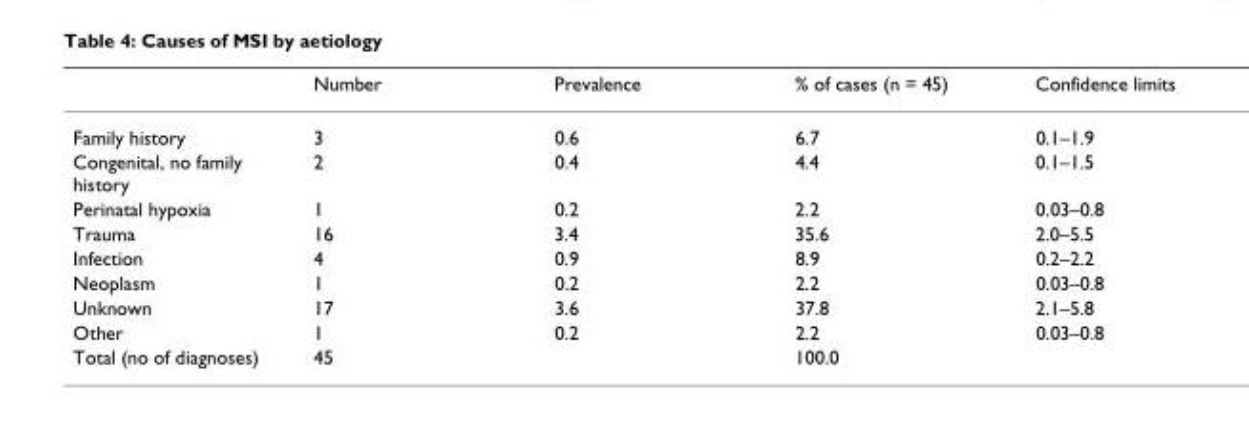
<table><thead><tr><td></td><td>Number</td><td>Prevalence</td><td>% of cases (n = 45)</td><td>Confidence limits</td></tr></thead><tbody><tr><td>Family history</td><td>3</td><td>0.6</td><td>6.7</td><td>0.1–1.9</td></tr><tr><td>Congenital, no family history</td><td>2</td><td>0.4</td><td>4.4</td><td>0.1–1.5</td></tr><tr><td>Perinatal hypoxia</td><td>1</td><td>0.2</td><td>2.2</td><td>0.03–0.8</td></tr><tr><td>Trauma</td><td>16</td><td>3.4</td><td>35.6</td><td>2.0–5.5</td></tr><tr><td>Infection</td><td>4</td><td>0.9</td><td>8.9</td><td>0.2–2.2</td></tr><tr><td>Neoplasm</td><td>1</td><td>0.2</td><td>2.2</td><td>0.03–0.8</td></tr><tr><td>Unknown</td><td>17</td><td>3.6</td><td>37.8</td><td>2.1–5.8</td></tr><tr><td>Other</td><td>1</td><td>0.2</td><td>2.2</td><td>0.03–0.8</td></tr><tr><td>Total (no of diagnoses)</td><td>45</td><td></td><td>100.0</td><td></td></tr></tbody></table>